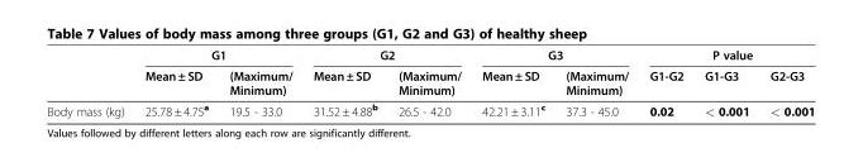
<table><thead><tr><td rowspan="2"></td><td colspan="2">G1</td><td colspan="2">G2</td><td colspan="2">G3</td><td colspan="3">P value</td></tr><tr><td>Mean ± SD</td><td>(Maximum/ Minimum)</td><td>Mean ± SD</td><td>(Maximum/ Minimum)</td><td>Mean ± SD</td><td>(Maximum/ Minimum)</td><td>G1-G2</td><td>G1-G3</td><td>G2-G3</td></tr></thead><tbody><tr><td>Body mass (kg)</td><td>25.78 ± 4.75<sup>a</sup></td><td>19.5 - 33.0</td><td>31.52 ± 4.88<sup>b</sup></td><td>26.5 - 42.0</td><td>42.21 ± 3.11<sup>c</sup></td><td>37.3 - 45.0</td><td>0.02</td><td>&lt; 0.001</td><td>&lt; 0.001</td></tr></tbody></table>